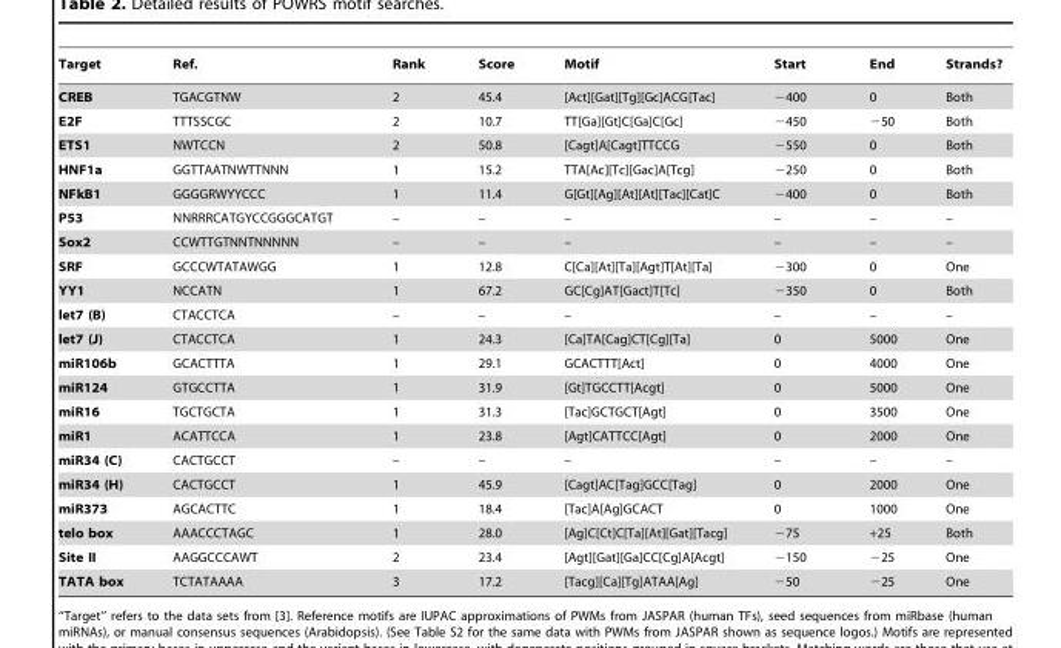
<table><thead><tr><td>Target</td><td>Ref.</td><td>Rank</td><td>Score</td><td>Motif</td><td>Start</td><td>End</td><td>Strands?</td></tr></thead><tbody><tr><td>CREB</td><td>TGACGTNW</td><td>2</td><td>45.4</td><td>[Act][Gat][Tg][Gc]ACG[Tac]</td><td>−400</td><td>0</td><td>Both</td></tr><tr><td>E2F</td><td>TTTSSCGC</td><td>2</td><td>10.7</td><td>TT[Ga][Gt]C[Ga]C[Gc]</td><td>−450</td><td>−50</td><td>Both</td></tr><tr><td>ETS1</td><td>NWTCCN</td><td>2</td><td>50.8</td><td>[Cagt]A[Cagt]TTCCG</td><td>−550</td><td>0</td><td>Both</td></tr><tr><td>HNF1a</td><td>GGTTAATNWTTNNN</td><td>1</td><td>15.2</td><td>TTA[Ac][Tc][Gac]A[Tcg]</td><td>−250</td><td>0</td><td>Both</td></tr><tr><td>NFkB1</td><td>GGGGRWYYCCC</td><td>1</td><td>11.4</td><td>G[Gt][Ag][At][At][Tac][Cat]C</td><td>−400</td><td>0</td><td>Both</td></tr><tr><td>P53</td><td>NNRRRCATGYCCGGGCATGT</td><td>–</td><td>–</td><td>–</td><td>–</td><td>–</td><td>–</td></tr><tr><td>Sox2</td><td>CCWTTGTNNTNNNNN</td><td>–</td><td>–</td><td>–</td><td>–</td><td>–</td><td>–</td></tr><tr><td>SRF</td><td>GCCCWTATAWGG</td><td>1</td><td>12.8</td><td>C[Ca][At][Ta][Agt]T[At][Ta]</td><td>−300</td><td>0</td><td>One</td></tr><tr><td>YY1</td><td>NCCATN</td><td>1</td><td>67.2</td><td>GC[Cg]AT[Gact]T[Tc]</td><td>−350</td><td>0</td><td>Both</td></tr><tr><td>let7 (B)</td><td>CTACCTCA</td><td>–</td><td>–</td><td>–</td><td>–</td><td>–</td><td>–</td></tr><tr><td>let7 (J)</td><td>CTACCTCA</td><td>1</td><td>24.3</td><td>[Ca]TA[Cag]CT[Cg][Ta]</td><td>0</td><td>5000</td><td>One</td></tr><tr><td>miR106b</td><td>GCACTTTA</td><td>1</td><td>29.1</td><td>GCACTTT[Act]</td><td>0</td><td>4000</td><td>One</td></tr><tr><td>miR124</td><td>GTGCCTTA</td><td>1</td><td>31.9</td><td>[Gt]TGCCTT[Acgt]</td><td>0</td><td>5000</td><td>One</td></tr><tr><td>miR16</td><td>TGCTGCTA</td><td>1</td><td>31.3</td><td>[Tac]GCTGCT[Agt]</td><td>0</td><td>3500</td><td>One</td></tr><tr><td>miR1</td><td>ACATTCCA</td><td>1</td><td>23.8</td><td>[Agt]CATTCC[Agt]</td><td>0</td><td>2000</td><td>One</td></tr><tr><td>miR34 (C)</td><td>CACTGCCT</td><td>–</td><td>–</td><td>–</td><td>–</td><td>–</td><td>–</td></tr><tr><td>miR34 (H)</td><td>CACTGCCT</td><td>1</td><td>45.9</td><td>[Cagt]AC[Tag]GCC[Tag]</td><td>0</td><td>2000</td><td>One</td></tr><tr><td>miR373</td><td>AGCACTTC</td><td>1</td><td>18.4</td><td>[Tac]A[Ag]GCACT</td><td>0</td><td>1000</td><td>One</td></tr><tr><td>telo box</td><td>AAACCCTAGC</td><td>1</td><td>28.0</td><td>[Ag]C[Ct]C[Ta][At][Gat][Tacg]</td><td>−75</td><td>+25</td><td>Both</td></tr><tr><td>Site II</td><td>AAGGCCCAWT</td><td>2</td><td>23.4</td><td>[Agt][Gat][Ga]CC[Cg]A[Acgt]</td><td>−150</td><td>−25</td><td>One</td></tr><tr><td>TATA box</td><td>TCTATAAAA</td><td>3</td><td>17.2</td><td>[Tacg][Ca][Tg]ATAA[Ag]</td><td>−50</td><td>−25</td><td>One</td></tr></tbody></table>